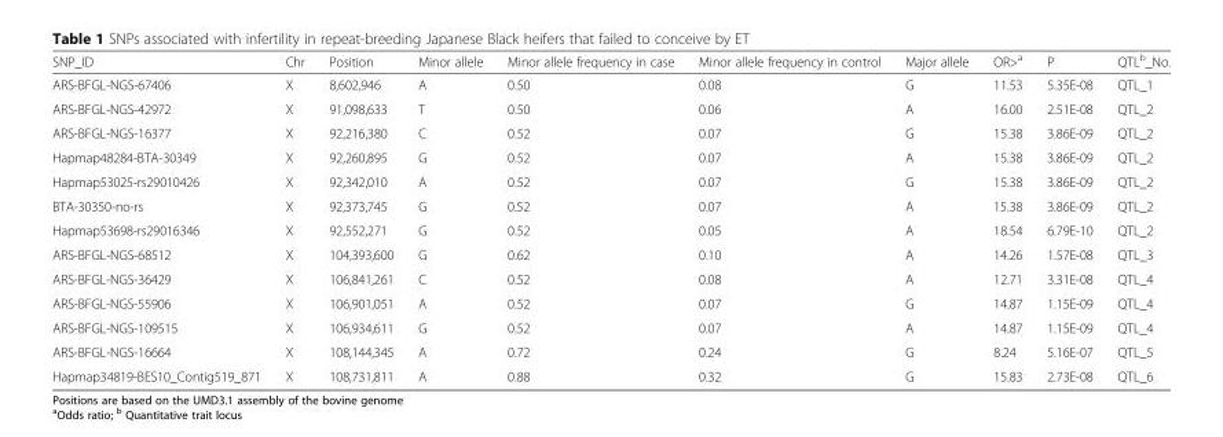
<table><thead><tr><td>SNP_ID</td><td>Chr</td><td>Position</td><td>Minor allele</td><td>Minor allele frequency in case</td><td>Minor allele frequency in control</td><td>Major allele</td><td>OR&gt;<sup>a</sup></td><td>P</td><td>QTL<sup>b</sup>_No.</td></tr></thead><tbody><tr><td>ARS-BFGL-NGS-67406</td><td>X</td><td>8,602,946</td><td>A</td><td>0.50</td><td>0.08</td><td>G</td><td>11.53</td><td>5.35E-08</td><td>QTL_1</td></tr><tr><td>ARS-BFGL-NGS-42972</td><td>X</td><td>91,098,633</td><td>T</td><td>0.50</td><td>0.06</td><td>A</td><td>16.00</td><td>2.51E-08</td><td>QTL_2</td></tr><tr><td>ARS-BFGL-NGS-16377</td><td>X</td><td>92,216,380</td><td>C</td><td>0.52</td><td>0.07</td><td>G</td><td>15.38</td><td>3.86E-09</td><td>QTL_2</td></tr><tr><td>Hapmap48284-BTA-30349</td><td>X</td><td>92,260,895</td><td>G</td><td>0.52</td><td>0.07</td><td>A</td><td>15.38</td><td>3.86E-09</td><td>QTL_2</td></tr><tr><td>Hapmap53025-rs29010426</td><td>X</td><td>92,342,010</td><td>A</td><td>0.52</td><td>0.07</td><td>G</td><td>15.38</td><td>3.86E-09</td><td>QTL_2</td></tr><tr><td>BTA-30350-no-rs</td><td>X</td><td>92,373,745</td><td>G</td><td>0.52</td><td>0.07</td><td>A</td><td>15.38</td><td>3.86E-09</td><td>QTL_2</td></tr><tr><td>Hapmap53698-rs29016346</td><td>X</td><td>92,552,271</td><td>G</td><td>0.52</td><td>0.05</td><td>A</td><td>18.54</td><td>6.79E-10</td><td>QTL_2</td></tr><tr><td>ARS-BFGL-NGS-68512</td><td>X</td><td>104,393,600</td><td>G</td><td>0.62</td><td>0.10</td><td>A</td><td>14.26</td><td>1.57E-08</td><td>QTL_3</td></tr><tr><td>ARS-BFGL-NGS-36429</td><td>X</td><td>106,841,261</td><td>C</td><td>0.52</td><td>0.08</td><td>A</td><td>12.71</td><td>3.31E-08</td><td>QTL_4</td></tr><tr><td>ARS-BFGL-NGS-55906</td><td>X</td><td>106,901,051</td><td>A</td><td>0.52</td><td>0.07</td><td>G</td><td>14.87</td><td>1.15E-09</td><td>QTL_4</td></tr><tr><td>ARS-BFGL-NGS-109515</td><td>X</td><td>106,934,611</td><td>G</td><td>0.52</td><td>0.07</td><td>A</td><td>14.87</td><td>1.15E-09</td><td>QTL_4</td></tr><tr><td>ARS-BFGL-NGS-16664</td><td>X</td><td>108,144,345</td><td>A</td><td>0.72</td><td>0.24</td><td>G</td><td>8.24</td><td>5.16E-07</td><td>QTL_5</td></tr><tr><td>Hapmap34819-BES10_Contig519_871</td><td>X</td><td>108,731,811</td><td>A</td><td>0.88</td><td>0.32</td><td>G</td><td>15.83</td><td>2.73E-08</td><td>QTL_6</td></tr></tbody></table>